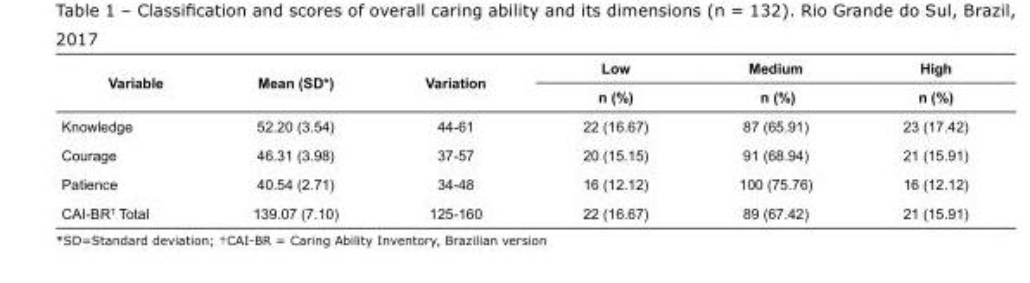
<table><tbody><tr><td rowspan="2">Variable</td><td rowspan="2">Mean (SD*)</td><td rowspan="2">Variation</td><td>Low</td><td>Medium</td><td>High</td></tr><tr><td>n (%)</td><td>n (%)</td><td>n (%)</td></tr><tr><td>Knowledge</td><td>52.20 (3.54)</td><td>44-61</td><td>22 (16.67)</td><td>87 (65.91)</td><td>23 (17.42)</td></tr><tr><td>Courage</td><td>46.31 (3.98)</td><td>37-57</td><td>20 (15.15)</td><td>91 (68.94)</td><td>21 (15.91)</td></tr><tr><td>Patience</td><td>40.54 (2.71)</td><td>34-48</td><td>16 (12.12)</td><td>100 (75.76)</td><td>16 (12.12)</td></tr><tr><td>CAI-BR<sup>†</sup> Total</td><td>139.07 (7.10)</td><td>125-160</td><td>22 (16.67)</td><td>89 (67.42)</td><td>21 (15.91)</td></tr></tbody></table>